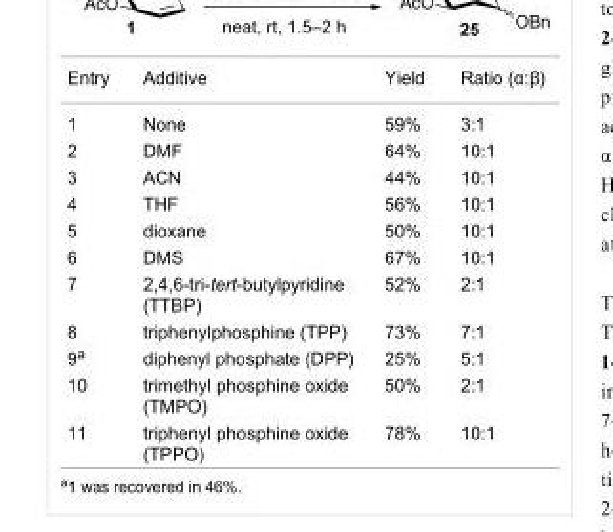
<table><tbody><tr><td>Entry</td><td>Additive</td><td>Yield</td><td>Ratio (α:β)</td></tr><tr><td>1</td><td>None</td><td>59%</td><td>3:1</td></tr><tr><td>2</td><td>DMF</td><td>64%</td><td>10:1</td></tr><tr><td>3</td><td>ACN</td><td>44%</td><td>10:1</td></tr><tr><td>4</td><td>THF</td><td>56%</td><td>10:1</td></tr><tr><td>5</td><td>dioxane</td><td>50%</td><td>10:1</td></tr><tr><td>6</td><td>DMS</td><td>67%</td><td>10:1</td></tr><tr><td>7</td><td>2,4,6-tri-tert-butylpyridine (TTBP)</td><td>52%</td><td>2:1</td></tr><tr><td>8</td><td>triphenylphosphine (TPP)</td><td>73%</td><td>7:1</td></tr><tr><td>9<sup>a</sup></td><td>diphenyl phosphate (DPP)</td><td>25%</td><td>5:1</td></tr><tr><td>10</td><td>trimethyl phosphine oxide (TMPO)</td><td>50%</td><td>2:1</td></tr><tr><td>11</td><td>triphenyl phosphine oxide (TPPO)</td><td>78%</td><td>10:1</td></tr></tbody></table>